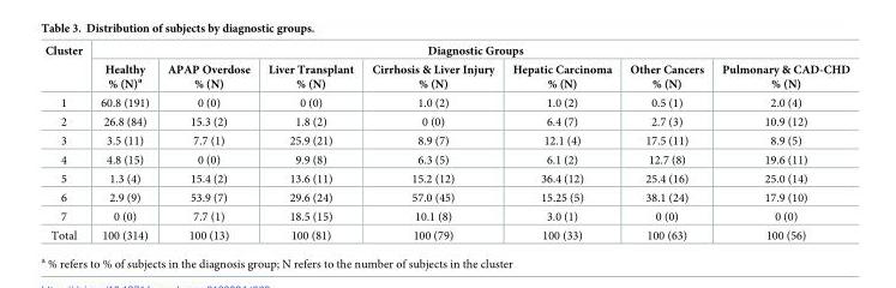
<table><thead><tr><td rowspan="2">Cluster</td><td colspan="7">Diagnostic Groups</td></tr><tr><td>Healthy % (N)<sup>a</sup></td><td>APAP Overdose % (N)</td><td>Liver Transplant % (N)</td><td>Cirrhosis &amp; Liver Injury % (N)</td><td>Hepatic Carcinoma % (N)</td><td>Other Cancers % (N)</td><td>Pulmonary &amp; CAD-CHD % (N)</td></tr></thead><tbody><tr><td>1</td><td>60.8 (191)</td><td>0 (0)</td><td>0 (0)</td><td>1.0 (2)</td><td>1.0 (2)</td><td>0.5 (1)</td><td>2.0 (4)</td></tr><tr><td>2</td><td>26.8 (84)</td><td>15.3 (2)</td><td>1.8 (2)</td><td>0 (0)</td><td>6.4 (7)</td><td>2.7 (3)</td><td>10.9 (12)</td></tr><tr><td>3</td><td>3.5 (11)</td><td>7.7 (1)</td><td>25.9 (21)</td><td>8.9 (7)</td><td>12.1 (4)</td><td>17.5 (11)</td><td>8.9 (5)</td></tr><tr><td>4</td><td>4.8 (15)</td><td>0 (0)</td><td>9.9 (8)</td><td>6.3 (5)</td><td>6.1 (2)</td><td>12.7 (8)</td><td>19.6 (11)</td></tr><tr><td>5</td><td>1.3 (4)</td><td>15.4 (2)</td><td>13.6 (11)</td><td>15.2 (12)</td><td>36.4 (12)</td><td>25.4 (16)</td><td>25.0 (14)</td></tr><tr><td>6</td><td>2.9 (9)</td><td>53.9 (7)</td><td>29.6 (24)</td><td>57.0 (45)</td><td>15.25 (5)</td><td>38.1 (24)</td><td>17.9 (10)</td></tr><tr><td>7</td><td>0 (0)</td><td>7.7 (1)</td><td>18.5 (15)</td><td>10.1 (8)</td><td>3.0 (1)</td><td>0 (0)</td><td>0 (0)</td></tr><tr><td>Total</td><td>100 (314)</td><td>100 (13)</td><td>100 (81)</td><td>100 (79)</td><td>100 (33)</td><td>100 (63)</td><td>100 (56)</td></tr></tbody></table>